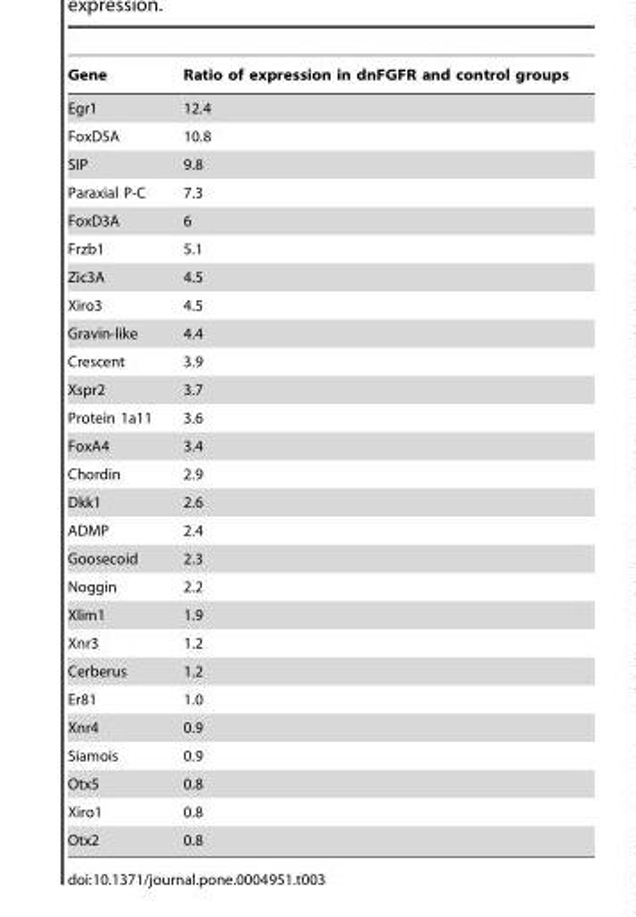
<table><thead><tr><td>Gene</td><td>Ratio of expression in dnFGFR and control groups</td></tr></thead><tbody><tr><td>Egr1</td><td>12.4</td></tr><tr><td>FoxD5A</td><td>10.8</td></tr><tr><td>SIP</td><td>9.8</td></tr><tr><td>Paraxial P-C</td><td>7.3</td></tr><tr><td>FoxD3A</td><td>6</td></tr><tr><td>Frzb1</td><td>5.1</td></tr><tr><td>Zic3A</td><td>4.5</td></tr><tr><td>Xiro3</td><td>4.5</td></tr><tr><td>Gravin-like</td><td>4.4</td></tr><tr><td>Crescent</td><td>3.9</td></tr><tr><td>Xspr2</td><td>3.7</td></tr><tr><td>Protein 1a11</td><td>3.6</td></tr><tr><td>FoxA4</td><td>3.4</td></tr><tr><td>Chordin</td><td>2.9</td></tr><tr><td>Dkk1</td><td>2.6</td></tr><tr><td>ADMP</td><td>2.4</td></tr><tr><td>Goosecoid</td><td>2.3</td></tr><tr><td>Noggin</td><td>2.2</td></tr><tr><td>Xlim1</td><td>1.9</td></tr><tr><td>Xnr3</td><td>1.2</td></tr><tr><td>Cerberus</td><td>1.2</td></tr><tr><td>Er81</td><td>1.0</td></tr><tr><td>Xnr4</td><td>0.9</td></tr><tr><td>Siamois</td><td>0.9</td></tr><tr><td>Otx5</td><td>0.8</td></tr><tr><td>Xiro1</td><td>0.8</td></tr><tr><td>Otx2</td><td>0.8</td></tr></tbody></table>